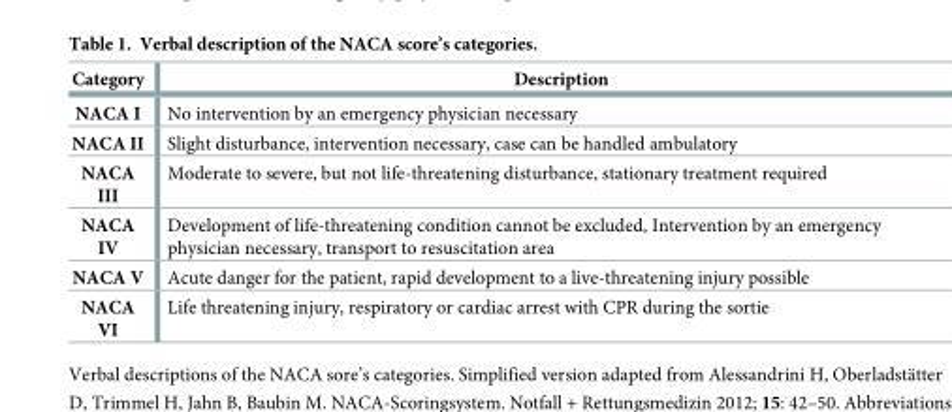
<table><thead><tr><td>Category</td><td>Description</td></tr></thead><tbody><tr><td>NACA I</td><td>No intervention by an emergency physician necessary</td></tr><tr><td>NACA II</td><td>Slight disturbance, intervention necessary, case can be handled ambulatory</td></tr><tr><td>NACA III</td><td>Moderate to severe, but not life-threatening disturbance, stationary treatment required</td></tr><tr><td>NACA IV</td><td>Development of life-threatening condition cannot be excluded, Intervention by an emergency physician necessary, transport to resuscitation area</td></tr><tr><td>NACA V</td><td>Acute danger for the patient, rapid development to a live-threatening injury possible</td></tr><tr><td>NACA VI</td><td>Life threatening injury, respiratory or cardiac arrest with CPR during the sortie</td></tr></tbody></table>